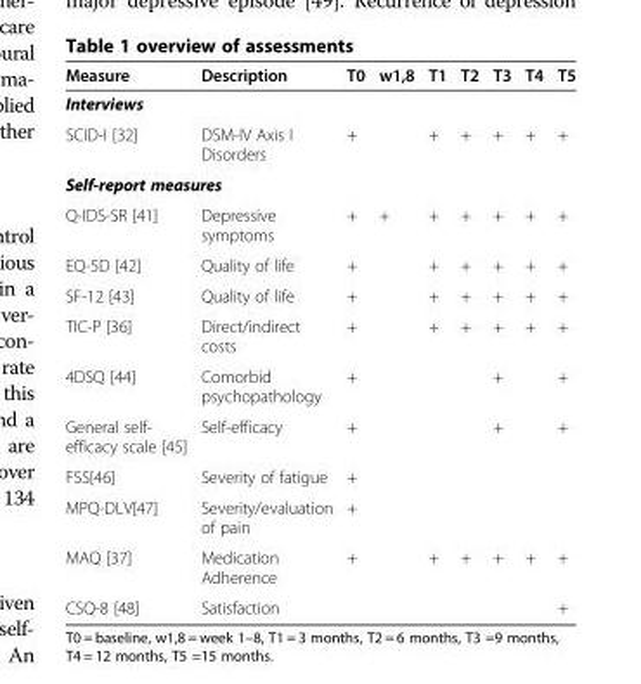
<table><thead><tr><td>Measure</td><td>Description</td><td>T0</td><td>w1,8</td><td>T1</td><td>T2</td><td>T3</td><td>T4</td><td>T5</td></tr></thead><tbody><tr><td colspan="9">Interviews</td></tr><tr><td>SCID-I [32]</td><td>DSM-IV Axis I Disorders</td><td>+</td><td></td><td>+</td><td>+</td><td>+</td><td>+</td><td>+</td></tr><tr><td colspan="9">Self-report measures</td></tr><tr><td>Q-IDS-SR [41]</td><td>Depressive symptoms</td><td>+</td><td>+</td><td>+</td><td>+</td><td>+</td><td>+</td><td>+</td></tr><tr><td>EQ-5D [42]</td><td>Quality of life</td><td>+</td><td></td><td>+</td><td>+</td><td>+</td><td>+</td><td>+</td></tr><tr><td>SF-12 [43]</td><td>Quality of life</td><td>+</td><td></td><td>+</td><td>+</td><td>+</td><td>+</td><td>+</td></tr><tr><td>TIC-P [36]</td><td>Direct/indirect costs</td><td>+</td><td></td><td>+</td><td>+</td><td>+</td><td>+</td><td>+</td></tr><tr><td>4DSQ [44]</td><td>Comorbid psychopathology</td><td>+</td><td></td><td></td><td></td><td>+</td><td></td><td>+</td></tr><tr><td>General self- efficacy scale [45]</td><td>Self-efficacy</td><td>+</td><td></td><td></td><td></td><td>+</td><td></td><td>+</td></tr><tr><td>FSS[46]</td><td>Severity of fatigue</td><td>+</td><td></td><td></td><td></td><td></td><td></td><td></td></tr><tr><td>MPQ-DLV[47]</td><td>Severity/evaluation of pain</td><td>+</td><td></td><td></td><td></td><td></td><td></td><td></td></tr><tr><td>MAQ [37]</td><td>Medication Adherence</td><td>+</td><td></td><td>+</td><td>+</td><td>+</td><td>+</td><td>+</td></tr><tr><td>CSQ-8 [48]</td><td>Satisfaction</td><td></td><td></td><td></td><td></td><td></td><td></td><td>+</td></tr></tbody></table>